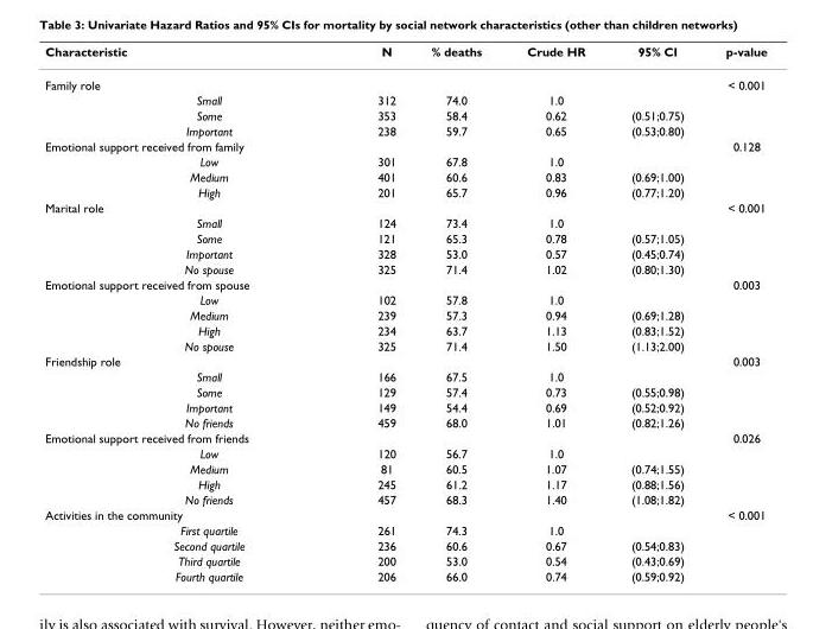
<table><thead><tr><td>Characteristic</td><td>N</td><td>% deaths</td><td>Crude HR</td><td>95% CI</td><td>p-value</td></tr></thead><tbody><tr><td>Family role</td><td></td><td></td><td></td><td></td><td>&lt; 0.001</td></tr><tr><td>Small</td><td>312</td><td>74.0</td><td>1.0</td><td></td><td></td></tr><tr><td>Some</td><td>353</td><td>58.4</td><td>0.62</td><td>(0.51;0.75)</td><td></td></tr><tr><td>Important</td><td>238</td><td>59.7</td><td>0.65</td><td>(0.53;0.80)</td><td></td></tr><tr><td>Emotional support received from family</td><td></td><td></td><td></td><td></td><td>0.128</td></tr><tr><td>Low</td><td>301</td><td>67.8</td><td>1.0</td><td></td><td></td></tr><tr><td>Medium</td><td>401</td><td>60.6</td><td>0.83</td><td>(0.69;1.00)</td><td></td></tr><tr><td>High</td><td>201</td><td>65.7</td><td>0.96</td><td>(0.77;1.20)</td><td></td></tr><tr><td>Marital role</td><td></td><td></td><td></td><td></td><td>&lt; 0.001</td></tr><tr><td>Small</td><td>124</td><td>73.4</td><td>1.0</td><td></td><td></td></tr><tr><td>Some</td><td>121</td><td>65.3</td><td>0.78</td><td>(0.57;1.05)</td><td></td></tr><tr><td>Important</td><td>328</td><td>53.0</td><td>0.57</td><td>(0.45;0.74)</td><td></td></tr><tr><td>No spouse</td><td>325</td><td>71.4</td><td>1.02</td><td>(0.80;1.30)</td><td></td></tr><tr><td>Emotional support received from spouse</td><td></td><td></td><td></td><td></td><td>0.003</td></tr><tr><td>Low</td><td>102</td><td>57.8</td><td>1.0</td><td></td><td></td></tr><tr><td>Medium</td><td>239</td><td>57.3</td><td>0.94</td><td>(0.69;1.28)</td><td></td></tr><tr><td>High</td><td>234</td><td>63.7</td><td>1.13</td><td>(0.83;1.52)</td><td></td></tr><tr><td>No spouse</td><td>325</td><td>71.4</td><td>1.50</td><td>(1.13;2.00)</td><td></td></tr><tr><td>Friendship role</td><td></td><td></td><td></td><td></td><td>0.003</td></tr><tr><td>Small</td><td>166</td><td>67.5</td><td>1.0</td><td></td><td></td></tr><tr><td>Some</td><td>129</td><td>57.4</td><td>0.73</td><td>(0.55;0.98)</td><td></td></tr><tr><td>Important</td><td>149</td><td>54.4</td><td>0.69</td><td>(0.52;0.92)</td><td></td></tr><tr><td>No friends</td><td>459</td><td>68.0</td><td>1.01</td><td>(0.82;1.26)</td><td></td></tr><tr><td>Emotional support received from friends</td><td></td><td></td><td></td><td></td><td>0.026</td></tr><tr><td>Low</td><td>120</td><td>56.7</td><td>1.0</td><td></td><td></td></tr><tr><td>Medium</td><td>81</td><td>60.5</td><td>1.07</td><td>(0.74;1.55)</td><td></td></tr><tr><td>High</td><td>245</td><td>61.2</td><td>1.17</td><td>(0.88;1.56)</td><td></td></tr><tr><td>No friends</td><td>457</td><td>68.3</td><td>1.40</td><td>(1.08;1.82)</td><td></td></tr><tr><td>Activities in the community</td><td></td><td></td><td></td><td></td><td>&lt; 0.001</td></tr><tr><td>First quartile</td><td>261</td><td>74.3</td><td>1.0</td><td></td><td></td></tr><tr><td>Second quartile</td><td>236</td><td>60.6</td><td>0.67</td><td>(0.54;0.83)</td><td></td></tr><tr><td>Third quartile</td><td>200</td><td>53.0</td><td>0.54</td><td>(0.43;0.69)</td><td></td></tr><tr><td>Fourth quartile</td><td>206</td><td>66.0</td><td>0.74</td><td>(0.59;0.92)</td><td></td></tr></tbody></table>